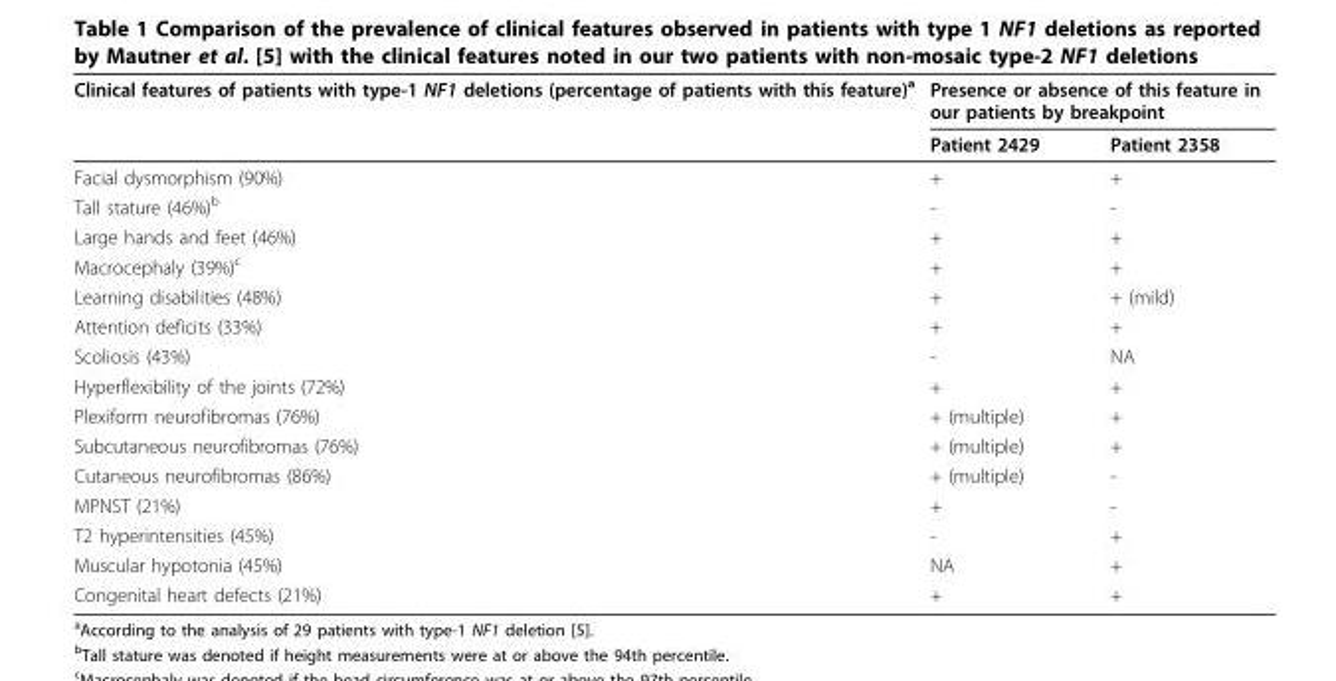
<table><thead><tr><td rowspan="2">Clinical features of patients with type-1 NF1 deletions (percentage of patients with this feature)<sup>a</sup></td><td colspan="2">Presence or absence of this feature in our patients by breakpoint</td></tr><tr><td>Patient 2429</td><td>Patient 2358</td></tr></thead><tbody><tr><td>Facial dysmorphism (90%)</td><td>+</td><td>+</td></tr><tr><td>Tall stature (46%)<sup>b</sup></td><td>-</td><td>-</td></tr><tr><td>Large hands and feet (46%)</td><td>+</td><td>+</td></tr><tr><td>Macrocephaly (39%)<sup>c</sup></td><td>+</td><td>+</td></tr><tr><td>Learning disabilities (48%)</td><td>+</td><td>+ (mild)</td></tr><tr><td>Attention deficits (33%)</td><td>+</td><td>+</td></tr><tr><td>Scoliosis (43%)</td><td>-</td><td>NA</td></tr><tr><td>Hyperflexibility of the joints (72%)</td><td>+</td><td>+</td></tr><tr><td>Plexiform neurofibromas (76%)</td><td>+ (multiple)</td><td>+</td></tr><tr><td>Subcutaneous neurofibromas (76%)</td><td>+ (multiple)</td><td>+</td></tr><tr><td>Cutaneous neurofibromas (86%)</td><td>+ (multiple)</td><td>-</td></tr><tr><td>MPNST (21%)</td><td>+</td><td>-</td></tr><tr><td>T2 hyperintensities (45%)</td><td>-</td><td>+</td></tr><tr><td>Muscular hypotonia (45%)</td><td>NA</td><td>+</td></tr><tr><td>Congenital heart defects (21%)</td><td>+</td><td>+</td></tr></tbody></table>